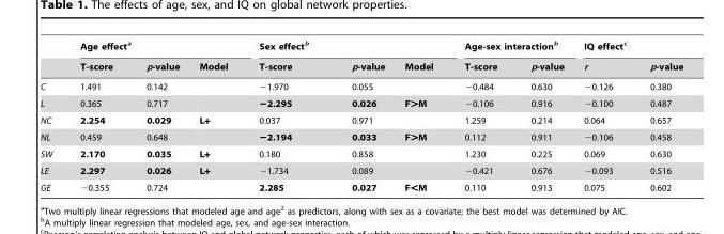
<table><thead><tr><td rowspan="2"></td><td colspan="3">Age effect<sup>a</sup></td><td colspan="3">Sex effect<sup>b</sup></td><td colspan="2">Age-sex interaction<sup>b</sup></td><td colspan="2">IQ effect<sup>c</sup></td></tr><tr><td>T-score</td><td>p-value</td><td>Model</td><td>T-score</td><td>p-value</td><td>Model</td><td>T-score</td><td>p-value</td><td>r</td><td>p-value</td></tr></thead><tbody><tr><td>C</td><td>1.491</td><td>0.142</td><td></td><td>−1.970</td><td>0.055</td><td></td><td>−0.484</td><td>0.630</td><td>−0.126</td><td>0.380</td></tr><tr><td>L</td><td>0.365</td><td>0.717</td><td></td><td>−2.295</td><td>0.026</td><td>F&gt;M</td><td>−0.106</td><td>0.916</td><td>−0.100</td><td>0.487</td></tr><tr><td>NC</td><td>2.254</td><td>0.029</td><td>L+</td><td>0.037</td><td>0.971</td><td></td><td>1.259</td><td>0.214</td><td>0.064</td><td>0.657</td></tr><tr><td>NL</td><td>0.459</td><td>0.648</td><td></td><td>−2.194</td><td>0.033</td><td>F&gt;M</td><td>0.112</td><td>0.911</td><td>−0.106</td><td>0.458</td></tr><tr><td>SW</td><td>2.170</td><td>0.035</td><td>L+</td><td>0.180</td><td>0.858</td><td></td><td>1.230</td><td>0.225</td><td>0.069</td><td>0.630</td></tr><tr><td>LE</td><td>2.297</td><td>0.026</td><td>L+</td><td>−1.734</td><td>0.089</td><td></td><td>−0.421</td><td>0.676</td><td>−0.093</td><td>0.516</td></tr><tr><td>GE</td><td>−0.355</td><td>0.724</td><td></td><td>2.285</td><td>0.027</td><td>F&lt;M</td><td>0.110</td><td>0.913</td><td>0.075</td><td>0.602</td></tr></tbody></table>